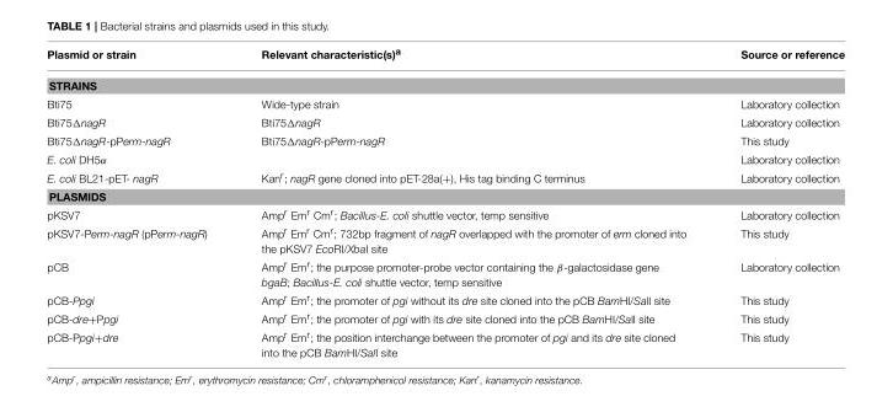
<table><thead><tr><td>Plasmid or strain</td><td>Relevant characteristic(s)<sup>a</sup></td><td>Source or reference</td></tr></thead><tbody><tr><td colspan="3">STRAINS</td></tr><tr><td>Bti75</td><td>Wide-type strain</td><td>Laboratory collection</td></tr><tr><td>Bti75ΔnagR</td><td>Bti75ΔnagR</td><td>Laboratory collection</td></tr><tr><td>Bti75ΔnagR-pPerm-nagR</td><td>Bti75ΔnagR-pPerm-nagR</td><td>This study</td></tr><tr><td>E. coli DH5α</td><td></td><td>Laboratory collection</td></tr><tr><td>E. coli BL21-pET- nagR</td><td>Kan<sup>r</sup>; nagR gene cloned into pET-28a(+), His tag binding C terminus</td><td>Laboratory collection</td></tr><tr><td colspan="3">PLASMIDS</td></tr><tr><td>pKSV7</td><td>Amp<sup>r</sup> Em<sup>r</sup> Cm<sup>r</sup>; Bacillus-E. coli shuttle vector, temp sensitive</td><td>Laboratory collection</td></tr><tr><td>pKSV7-Perm-nagR (pPerm-nagR)</td><td>Amp<sup>r</sup> Em<sup>r</sup> Cm<sup>r</sup>; 732bp fragment of nagR overlapped with the promoter of erm cloned into the pKSV7 EcoRI/XbaI site</td><td>This study</td></tr><tr><td>pCB</td><td>Amp<sup>r</sup> Em<sup>r</sup>; the purpose promoter-probe vector containing the β-galactosidase gene bgaB; Bacillus-E. coli shuttle vector, temp sensitive</td><td>Laboratory collection</td></tr><tr><td>pCB-Ppgi</td><td>Amp<sup>r</sup> Em<sup>r</sup>; the promoter of pgi without its dre site cloned into the pCB BamHI/SalI site</td><td>This study</td></tr><tr><td>pCB-dre+Ppgi</td><td>Amp<sup>r</sup> Em<sup>r</sup>; the promoter of pgi with its dre site cloned into the pCB BamHI/SalI site</td><td>This study</td></tr><tr><td>pCB-Ppgi+dre</td><td>Amp<sup>r</sup> Em<sup>r</sup>; the position interchange between the promoter of pgi and its dre site cloned into the pCB BamHI/SalI site</td><td>This study</td></tr></tbody></table>